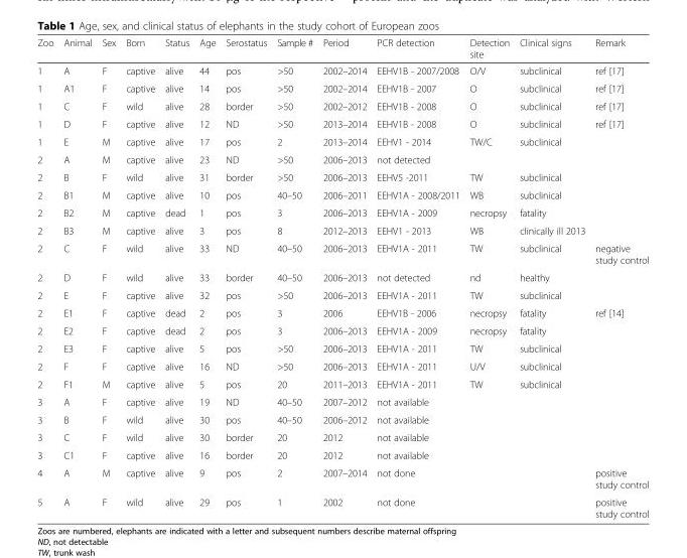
<table><thead><tr><td>Zoo</td><td>Animal</td><td>Sex</td><td>Born</td><td>Status</td><td>Age</td><td>Serostatus</td><td>Sample #</td><td>Period</td><td>PCR detection</td><td>Detection site</td><td>Clinical signs</td><td>Remark</td></tr></thead><tbody><tr><td>1</td><td>A</td><td>F</td><td>captive</td><td>alive</td><td>44</td><td>pos</td><td>&gt;50</td><td>2002–2014</td><td>EEHV1B - 2007/2008</td><td>O/V</td><td>subclinical</td><td>ref [17]</td></tr><tr><td>1</td><td>A1</td><td>F</td><td>captive</td><td>alive</td><td>14</td><td>pos</td><td>&gt;50</td><td>2002–2014</td><td>EEHV1B - 2007</td><td>O</td><td>subclinical</td><td>ref [17]</td></tr><tr><td>1</td><td>C</td><td>F</td><td>wild</td><td>alive</td><td>28</td><td>border</td><td>&gt;50</td><td>2002–2012</td><td>EEHV1B - 2008</td><td>O</td><td>subclinical</td><td>ref [17]</td></tr><tr><td>1</td><td>D</td><td>F</td><td>captive</td><td>alive</td><td>12</td><td>ND</td><td>&gt;50</td><td>2013–2014</td><td>EEHV1B - 2008</td><td>O</td><td>subclinical</td><td>ref [17]</td></tr><tr><td>1</td><td>E</td><td>M</td><td>captive</td><td>alive</td><td>17</td><td>pos</td><td>2</td><td>2013–2014</td><td>EEHV1 - 2014</td><td>TW/C</td><td>subclinical</td><td></td></tr><tr><td>2</td><td>A</td><td>M</td><td>captive</td><td>alive</td><td>23</td><td>ND</td><td>&gt;50</td><td>2006–2013</td><td>not detected</td><td></td><td></td><td></td></tr><tr><td>2</td><td>B</td><td>F</td><td>wild</td><td>alive</td><td>31</td><td>border</td><td>&gt;50</td><td>2006–2013</td><td>EEHV5 -2011</td><td>TW</td><td>subclinical</td><td></td></tr><tr><td>2</td><td>B1</td><td>M</td><td>captive</td><td>alive</td><td>10</td><td>pos</td><td>40–50</td><td>2006–2011</td><td>EEHV1A - 2008/2011</td><td>WB</td><td>subclinical</td><td></td></tr><tr><td>2</td><td>B2</td><td>M</td><td>captive</td><td>dead</td><td>1</td><td>pos</td><td>3</td><td>2006–2013</td><td>EEHV1A - 2009</td><td>necropsy</td><td>fatality</td><td></td></tr><tr><td>2</td><td>B3</td><td>M</td><td>captive</td><td>alive</td><td>3</td><td>pos</td><td>8</td><td>2012–2013</td><td>EEHV1 - 2013</td><td>WB</td><td>clinically ill 2013</td><td></td></tr><tr><td>2</td><td>C</td><td>F</td><td>wild</td><td>alive</td><td>33</td><td>ND</td><td>40–50</td><td>2006–2013</td><td>EEHV1A - 2011</td><td>TW</td><td>subclinical</td><td>negative study control</td></tr><tr><td>2</td><td>D</td><td>F</td><td>wild</td><td>alive</td><td>33</td><td>border</td><td>40–50</td><td>2006–2013</td><td>not detected</td><td>nd</td><td>healthy</td><td></td></tr><tr><td>2</td><td>E</td><td>F</td><td>captive</td><td>alive</td><td>32</td><td>pos</td><td>&gt;50</td><td>2006–2013</td><td>EEHV1A - 2011</td><td>TW</td><td>subclinical</td><td></td></tr><tr><td>2</td><td>E1</td><td>F</td><td>captive</td><td>dead</td><td>2</td><td>pos</td><td>3</td><td>2006</td><td>EEHV1B - 2006</td><td>necropsy</td><td>fatality</td><td>ref [14]</td></tr><tr><td>2</td><td>E2</td><td>F</td><td>captive</td><td>dead</td><td>2</td><td>pos</td><td>3</td><td>2006–2013</td><td>EEHV1A - 2009</td><td>necropsy</td><td>fatality</td><td></td></tr><tr><td>2</td><td>E3</td><td>F</td><td>captive</td><td>alive</td><td>5</td><td>pos</td><td>&gt;50</td><td>2006–2013</td><td>EEHV1A - 2011</td><td>TW</td><td>subclinical</td><td></td></tr><tr><td>2</td><td>F</td><td>F</td><td>captive</td><td>alive</td><td>16</td><td>ND</td><td>&gt;50</td><td>2006–2013</td><td>EEHV1A - 2011</td><td>U/V</td><td>subclinical</td><td></td></tr><tr><td>2</td><td>F1</td><td>M</td><td>captive</td><td>alive</td><td>5</td><td>pos</td><td>20</td><td>2011–2013</td><td>EEHV1A - 2011</td><td>TW</td><td>subclinical</td><td></td></tr><tr><td>3</td><td>A</td><td>F</td><td>captive</td><td>alive</td><td>19</td><td>ND</td><td>40–50</td><td>2007–2012</td><td>not available</td><td></td><td></td><td></td></tr><tr><td>3</td><td>B</td><td>F</td><td>wild</td><td>alive</td><td>30</td><td>pos</td><td>40–50</td><td>2006–2012</td><td>not available</td><td></td><td></td><td></td></tr><tr><td>3</td><td>C</td><td>F</td><td>wild</td><td>alive</td><td>30</td><td>border</td><td>20</td><td>2012</td><td>not available</td><td></td><td></td><td></td></tr><tr><td>3</td><td>C1</td><td>F</td><td>captive</td><td>alive</td><td>16</td><td>border</td><td>20</td><td>2012</td><td>not available</td><td></td><td></td><td></td></tr><tr><td>4</td><td>A</td><td>M</td><td>captive</td><td>alive</td><td>9</td><td>pos</td><td>2</td><td>2007–2014</td><td>not done</td><td></td><td></td><td>positive study control</td></tr><tr><td>5</td><td>A</td><td>F</td><td>wild</td><td>alive</td><td>29</td><td>pos</td><td>1</td><td>2002</td><td>not done</td><td></td><td></td><td>positive study control</td></tr></tbody></table>